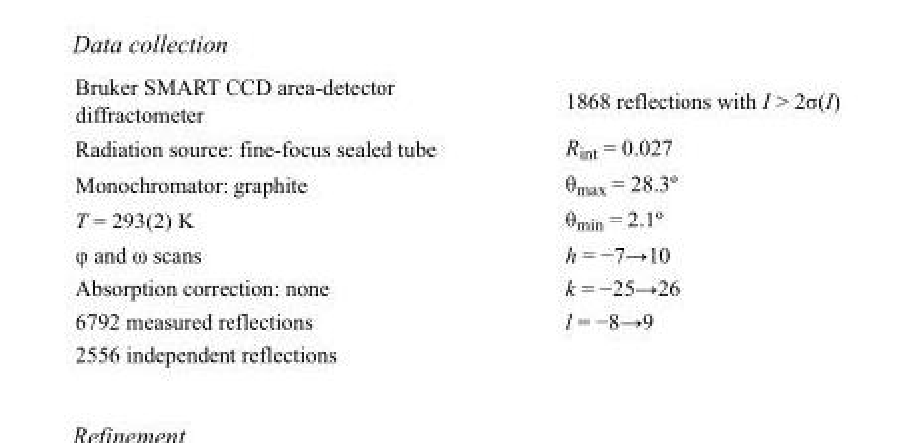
<table><tbody><tr><td>Bruker SMART CCD area-detector diffractometer</td><td>1868 reflections with I &gt; 2σ(I)</td></tr><tr><td>Radiation source: fine-focus sealed tube</td><td>R<sub>int</sub> = 0.027</td></tr><tr><td>Monochromator: graphite</td><td>θ<sub>max</sub> = 28.3º</td></tr><tr><td>T = 293(2) K</td><td>θ<sub>min</sub> = 2.1º</td></tr><tr><td>φ and ω scans</td><td>h = −7→10</td></tr><tr><td>Absorption correction: none</td><td>k = −25→26</td></tr><tr><td>6792 measured reflections</td><td>l = −8→9</td></tr><tr><td>2556 independent reflections</td><td></td></tr></tbody></table>